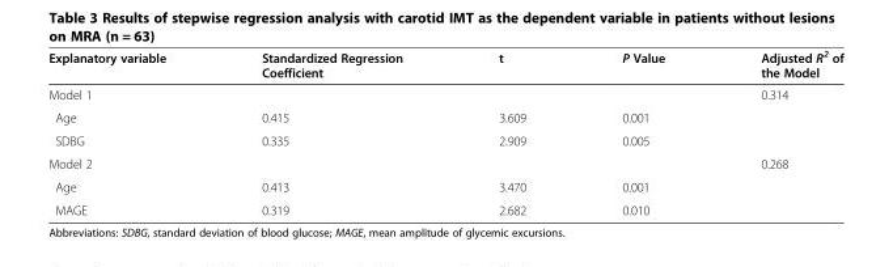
<table><thead><tr><td>Explanatory variable</td><td>Standardized Regression Coefficient</td><td>t</td><td>P Value</td><td>Adjusted R<sup>2</sup> of the Model</td></tr></thead><tbody><tr><td>Model 1</td><td></td><td></td><td></td><td>0.314</td></tr><tr><td>Age</td><td>0.415</td><td>3.609</td><td>0.001</td><td></td></tr><tr><td>SDBG</td><td>0.335</td><td>2.909</td><td>0.005</td><td></td></tr><tr><td>Model 2</td><td></td><td></td><td></td><td>0.268</td></tr><tr><td>Age</td><td>0.413</td><td>3.470</td><td>0.001</td><td></td></tr><tr><td>MAGE</td><td>0.319</td><td>2.682</td><td>0.010</td><td></td></tr></tbody></table>